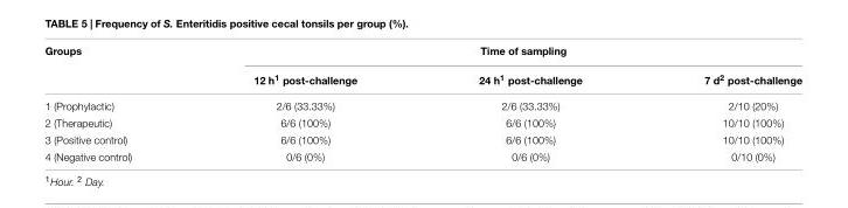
<table><thead><tr><td rowspan="2">Groups</td><td colspan="3">Time of sampling</td></tr><tr><td>12 h<sup>1</sup> post-challenge</td><td>24 h<sup>1</sup> post-challenge</td><td>7 d<sup>2</sup> post-challenge</td></tr></thead><tbody><tr><td>1 (Prophylactic)</td><td>2/6 (33.33%)</td><td>2/6 (33.33%)</td><td>2/10 (20%)</td></tr><tr><td>2 (Therapeutic)</td><td>6/6 (100%)</td><td>6/6 (100%)</td><td>10/10 (100%)</td></tr><tr><td>3 (Positive control)</td><td>6/6 (100%)</td><td>6/6 (100%)</td><td>10/10 (100%)</td></tr><tr><td>4 (Negative control)</td><td>0/6 (0%)</td><td>0/6 (0%)</td><td>0/10 (0%)</td></tr></tbody></table>